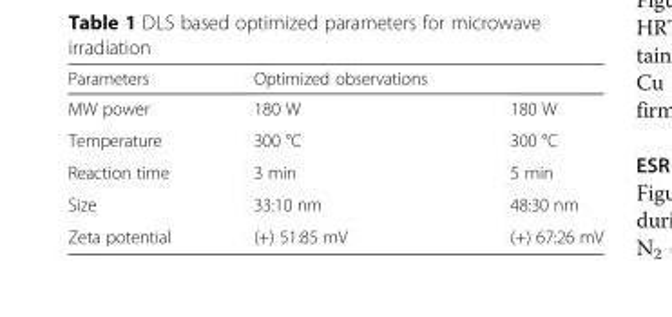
<table><thead><tr><td>Parameters</td><td>Optimized observations</td><td></td></tr></thead><tbody><tr><td>MW power</td><td>180 W</td><td>180 W</td></tr><tr><td>Temperature</td><td>300 °C</td><td>300 °C</td></tr><tr><td>Reaction time</td><td>3 min</td><td>5 min</td></tr><tr><td>Size</td><td>33:10 nm</td><td>48:30 nm</td></tr><tr><td>Zeta potential</td><td>(+) 51:85 mV</td><td>(+) 67:26 mV</td></tr></tbody></table>